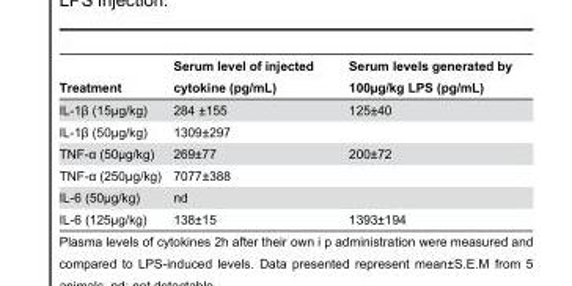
<table><thead><tr><td>Treatment</td><td>Serum level of injected cytokine (pg/mL)</td><td>Serum levels generated by 100µg/kg LPS (pg/mL)</td></tr></thead><tbody><tr><td>IL-1β (15µg/kg)</td><td>284 ±155</td><td>125±40</td></tr><tr><td>IL-1β (50µg/kg)</td><td>1309±297</td><td></td></tr><tr><td>TNF-α (50µg/kg)</td><td>269±77</td><td>200±72</td></tr><tr><td>TNF-α (250µg/kg)</td><td>7077±388</td><td></td></tr><tr><td>IL-6 (50µg/kg)</td><td>nd</td><td></td></tr><tr><td>IL-6 (125µg/kg)</td><td>138±15</td><td>1393±194</td></tr></tbody></table>